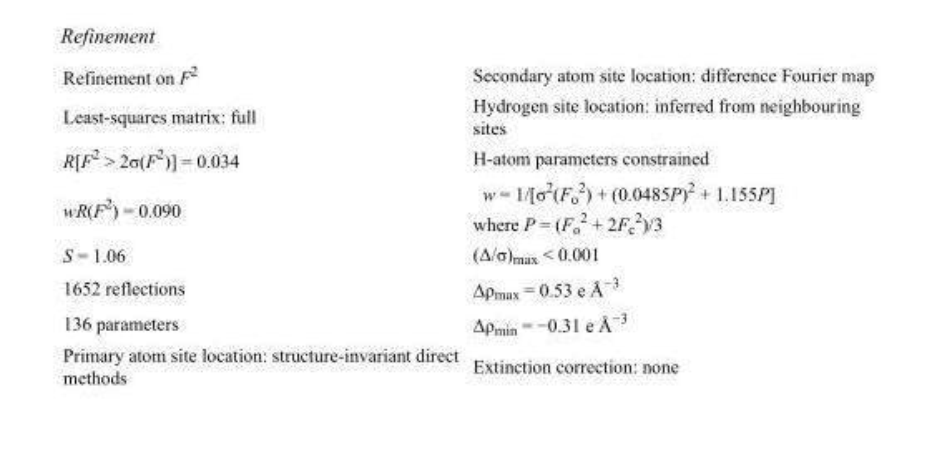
<table><tbody><tr><td>Refinement on F<sup>2</sup></td><td>Secondary atom site location: difference Fourier map</td></tr><tr><td>Least-squares matrix: full</td><td>Hydrogen site location: inferred from neighbouring sites</td></tr><tr><td>R[F<sup>2</sup> &gt; 2σ(F<sup>2</sup>)] = 0.034</td><td>H-atom parameters constrained</td></tr><tr><td>wR(F<sup>2</sup>) = 0.090</td><td>w = 1/[σ<sup>2</sup>(F<sub>o</sub> <sup>2</sup>) + (0.0485P)<sup>2</sup> + 1.155P] where P = (F<sub>o</sub> <sup>2</sup> + 2F<sub>c</sub> <sup>2</sup>)/3</td></tr><tr><td>S = 1.06</td><td>(Δ/σ)<sub>max</sub> &lt; 0.001</td></tr><tr><td>1652 reflections</td><td>Δρ<sub>max</sub> = 0.53 e Å<sup>−3</sup></td></tr><tr><td>136 parameters</td><td>Δρ<sub>min</sub> = −0.31 e Å<sup>−3</sup></td></tr><tr><td>Primary atom site location: structure-invariant direct methods</td><td>Extinction correction: none</td></tr></tbody></table>